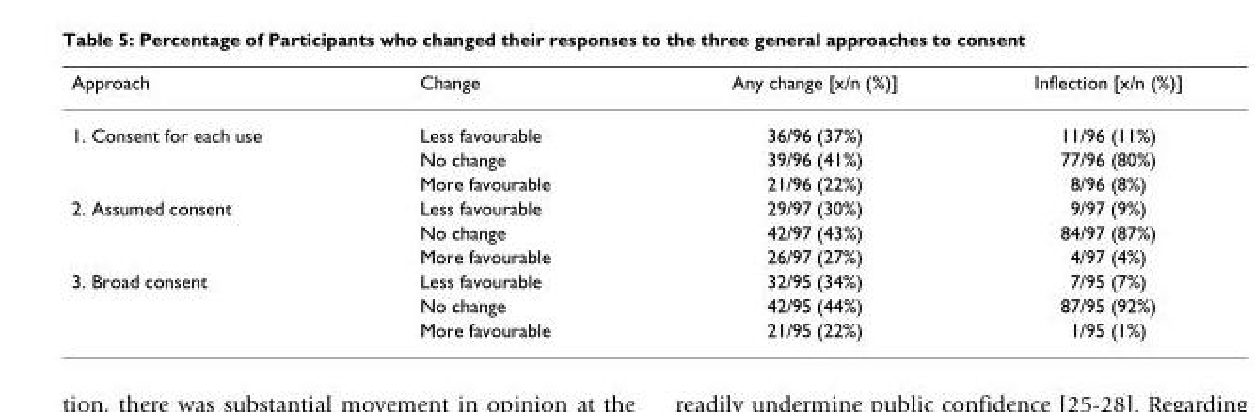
<table><thead><tr><td>Approach</td><td>Change</td><td>Any change [x/n (%)]</td><td>Inflection [x/n (%)]</td></tr></thead><tbody><tr><td rowspan="3">1. Consent for each use</td><td>Less favourable</td><td>36/96 (37%)</td><td>11/96 (11%)</td></tr><tr><td>No change</td><td>39/96 (41%)</td><td>77/96 (80%)</td></tr><tr><td>More favourable</td><td>21/96 (22%)</td><td>8/96 (8%)</td></tr><tr><td rowspan="3">2. Assumed consent</td><td>Less favourable</td><td>29/97 (30%)</td><td>9/97 (9%)</td></tr><tr><td>No change</td><td>42/97 (43%)</td><td>84/97 (87%)</td></tr><tr><td>More favourable</td><td>26/97 (27%)</td><td>4/97 (4%)</td></tr><tr><td rowspan="3">3. Broad consent</td><td>Less favourable</td><td>32/95 (34%)</td><td>7/95 (7%)</td></tr><tr><td>No change</td><td>42/95 (44%)</td><td>87/95 (92%)</td></tr><tr><td>More favourable</td><td>21/95 (22%)</td><td>1/95 (1%)</td></tr></tbody></table>